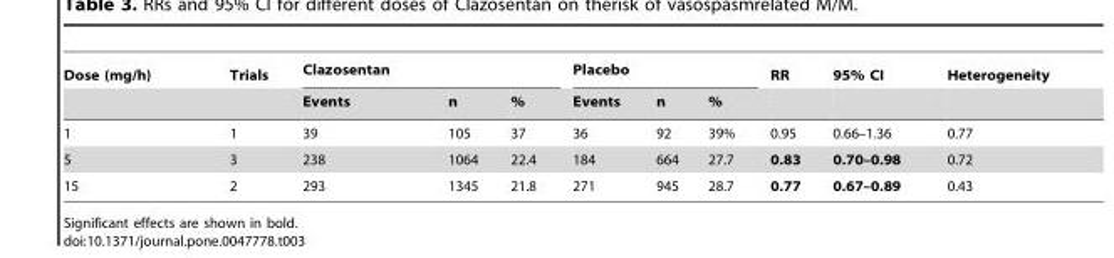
<table><thead><tr><td rowspan="2">Dose (mg/h)</td><td rowspan="2">Trials</td><td colspan="3">Clazosentan</td><td colspan="3">Placebo</td><td rowspan="2">RR</td><td rowspan="2">95% CI</td><td rowspan="2">Heterogeneity</td></tr><tr><td>Events</td><td>n</td><td>%</td><td>Events</td><td>n</td><td>%</td></tr></thead><tbody><tr><td>1</td><td>1</td><td>39</td><td>105</td><td>37</td><td>36</td><td>92</td><td>39%</td><td>0.95</td><td>0.66–1.36</td><td>0.77</td></tr><tr><td>5</td><td>3</td><td>238</td><td>1064</td><td>22.4</td><td>184</td><td>664</td><td>27.7</td><td>0.83</td><td>0.70–0.98</td><td>0.72</td></tr><tr><td>15</td><td>2</td><td>293</td><td>1345</td><td>21.8</td><td>271</td><td>945</td><td>28.7</td><td>0.77</td><td>0.67–0.89</td><td>0.43</td></tr></tbody></table>